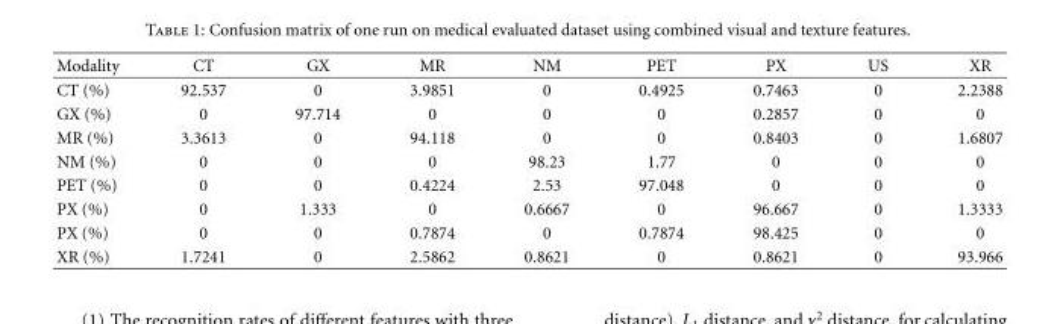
<table><thead><tr><td>Modality</td><td>CT</td><td>GX</td><td>MR</td><td>NM</td><td>PET</td><td>PX</td><td>US</td><td>XR</td></tr></thead><tbody><tr><td>CT (%)</td><td>92.537</td><td>0</td><td>3.9851</td><td>0</td><td>0.4925</td><td>0.7463</td><td>0</td><td>2.2388</td></tr><tr><td>GX (%)</td><td>0</td><td>97.714</td><td>0</td><td>0</td><td>0</td><td>0.2857</td><td>0</td><td>0</td></tr><tr><td>MR (%)</td><td>3.3613</td><td>0</td><td>94.118</td><td>0</td><td>0</td><td>0.8403</td><td>0</td><td>1.6807</td></tr><tr><td>NM (%)</td><td>0</td><td>0</td><td>0</td><td>98.23</td><td>1.77</td><td>0</td><td>0</td><td>0</td></tr><tr><td>PET (%)</td><td>0</td><td>0</td><td>0.4224</td><td>2.53</td><td>97.048</td><td>0</td><td>0</td><td>0</td></tr><tr><td>PX (%)</td><td>0</td><td>1.333</td><td>0</td><td>0.6667</td><td>0</td><td>96.667</td><td>0</td><td>1.3333</td></tr><tr><td>PX (%)</td><td>0</td><td>0</td><td>0.7874</td><td>0</td><td>0.7874</td><td>98.425</td><td>0</td><td>0</td></tr><tr><td>XR (%)</td><td>1.7241</td><td>0</td><td>2.5862</td><td>0.8621</td><td>0</td><td>0.8621</td><td>0</td><td>93.966</td></tr></tbody></table>